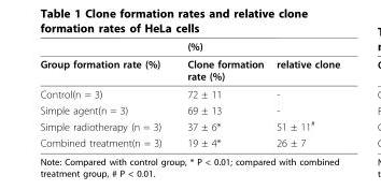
<table><thead><tr><td></td><td>(%)</td><td></td></tr></thead><tbody><tr><td>Group formation rate (%)</td><td>Clone formation rate (%)</td><td>relative clone</td></tr><tr><td>Control(n = 3)</td><td>72 ± 11</td><td>-</td></tr><tr><td>Simple agent(n = 3)</td><td>69 ± 13</td><td>-</td></tr><tr><td>Simple radiotherapy (n = 3)</td><td>37 ± 6*</td><td>51 ± 11<sup>#</sup></td></tr><tr><td>Combined treatment(n = 3)</td><td>19 ± 4*</td><td>26 ± 7</td></tr></tbody></table>